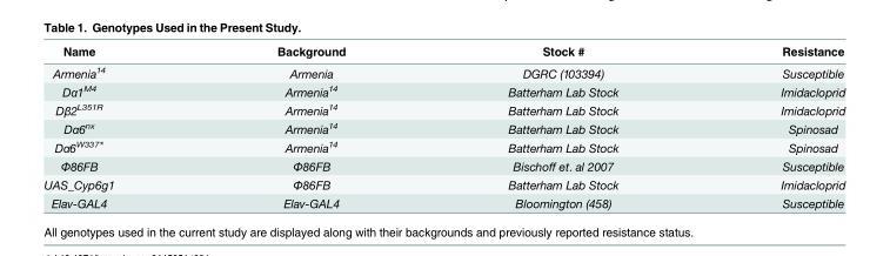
<table><thead><tr><td>Name</td><td>Background</td><td>Stock #</td><td>Resistance</td></tr></thead><tbody><tr><td>Armenia<sup>14</sup></td><td>Armenia</td><td>DGRC (103394)</td><td>Susceptible</td></tr><tr><td>Dα1<sup>M4</sup></td><td>Armenia<sup>14</sup></td><td>Batterham Lab Stock</td><td>Imidacloprid</td></tr><tr><td>Dβ2<sup>L351R</sup></td><td>Armenia<sup>14</sup></td><td>Batterham Lab Stock</td><td>Imidacloprid</td></tr><tr><td>Dα6<sup>nx</sup></td><td>Armenia<sup>14</sup></td><td>Batterham Lab Stock</td><td>Spinosad</td></tr><tr><td>Dα6<sup>W337*</sup></td><td>Armenia<sup>14</sup></td><td>Batterham Lab Stock</td><td>Spinosad</td></tr><tr><td>Φ86FB</td><td>Φ86FB</td><td>Bischoff et. al 2007</td><td>Susceptible</td></tr><tr><td>UAS_Cyp6g1</td><td>Φ86FB</td><td>Batterham Lab Stock</td><td>Imidacloprid</td></tr><tr><td>Elav-GAL4</td><td>Elav-GAL4</td><td>Bloomington (458)</td><td>Susceptible</td></tr></tbody></table>